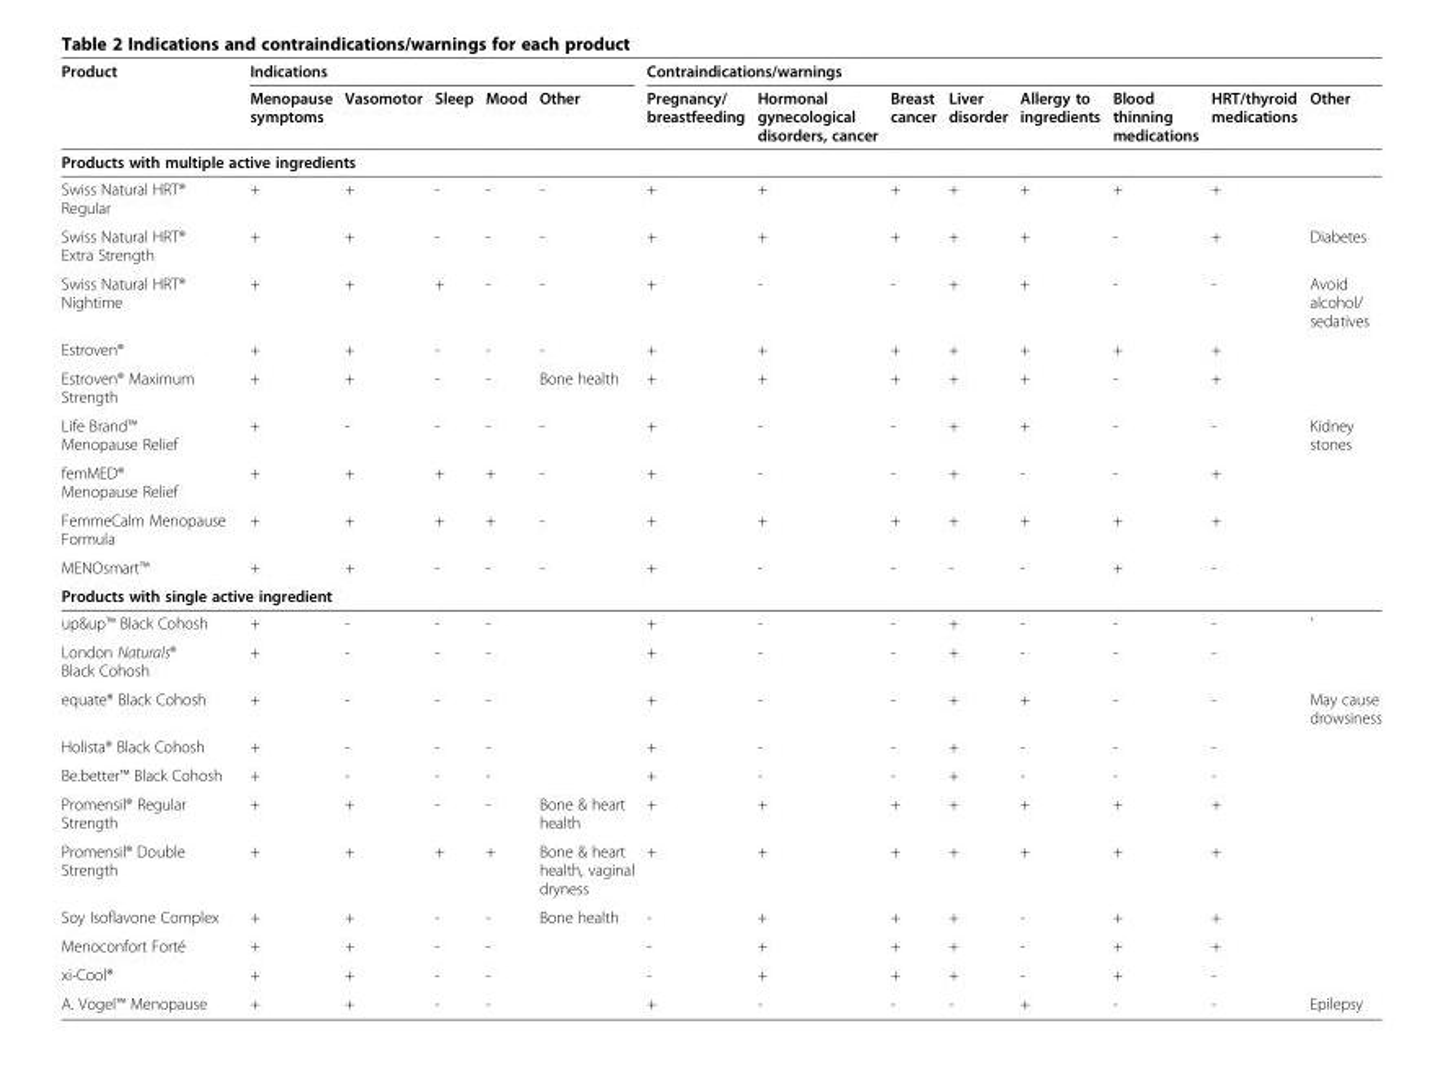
<table><thead><tr><td rowspan="2">Product</td><td colspan="5">Indications</td><td colspan="8">Contraindications/warnings</td></tr><tr><td>Menopause symptoms</td><td>Vasomotor</td><td>Sleep</td><td>Mood</td><td>Other</td><td>Pregnancy/ breastfeeding</td><td>Hormonal gynecological disorders, cancer</td><td>Breast cancer</td><td>Liver disorder</td><td>Allergy to ingredients</td><td>Blood thinning medications</td><td>HRT/thyroid medications</td><td>Other</td></tr></thead><tbody><tr><td colspan="14">Products with multiple active ingredients</td></tr><tr><td>Swiss Natural HRT® Regular</td><td>+</td><td>+</td><td>-</td><td>-</td><td>-</td><td>+</td><td>+</td><td>+</td><td>+</td><td>+</td><td>+</td><td>+</td><td></td></tr><tr><td>Swiss Natural HRT® Extra Strength</td><td>+</td><td>+</td><td>-</td><td>-</td><td>-</td><td>+</td><td>+</td><td>+</td><td>+</td><td>+</td><td>-</td><td>+</td><td>Diabetes</td></tr><tr><td>Swiss Natural HRT® Nightime</td><td>+</td><td>+</td><td>+</td><td>-</td><td>-</td><td>+</td><td>-</td><td>-</td><td>+</td><td>+</td><td>-</td><td>-</td><td>Avoid alcohol/ sedatives</td></tr><tr><td>Estroven®</td><td>+</td><td>+</td><td>-</td><td>-</td><td>-</td><td>+</td><td>+</td><td>+</td><td>+</td><td>+</td><td>+</td><td>+</td><td></td></tr><tr><td>Estroven® Maximum Strength</td><td>+</td><td>+</td><td>-</td><td>-</td><td>Bone health</td><td>+</td><td>+</td><td>+</td><td>+</td><td>+</td><td>-</td><td>+</td><td></td></tr><tr><td>Life Brand™ Menopause Relief</td><td>+</td><td>-</td><td>-</td><td>-</td><td>-</td><td>+</td><td>-</td><td>-</td><td>+</td><td>+</td><td>-</td><td>-</td><td>Kidney stones</td></tr><tr><td>femMED® Menopause Relief</td><td>+</td><td>+</td><td>+</td><td>+</td><td>-</td><td>+</td><td>-</td><td>-</td><td>+</td><td>-</td><td>-</td><td>+</td><td></td></tr><tr><td>FemmeCalm Menopause Formula</td><td>+</td><td>+</td><td>+</td><td>+</td><td>-</td><td>+</td><td>+</td><td>+</td><td>+</td><td>+</td><td>+</td><td>+</td><td></td></tr><tr><td>MENOsmart™</td><td>+</td><td>+</td><td>-</td><td>-</td><td>-</td><td>+</td><td>-</td><td>-</td><td>-</td><td>-</td><td>+</td><td>-</td><td></td></tr><tr><td colspan="14">Products with single active ingredient</td></tr><tr><td>up&amp;up™ Black Cohosh</td><td>+</td><td>-</td><td>-</td><td>-</td><td></td><td>+</td><td>-</td><td>-</td><td>+</td><td>-</td><td>-</td><td>-</td><td>’</td></tr><tr><td>London Naturals® Black Cohosh</td><td>+</td><td>-</td><td>-</td><td>-</td><td></td><td>+</td><td>-</td><td>-</td><td>+</td><td>-</td><td>-</td><td>-</td><td></td></tr><tr><td>equate® Black Cohosh</td><td>+</td><td>-</td><td>-</td><td>-</td><td></td><td>+</td><td>-</td><td>-</td><td>+</td><td>+</td><td>-</td><td>-</td><td>May cause drowsiness</td></tr><tr><td>Holista® Black Cohosh</td><td>+</td><td>-</td><td>-</td><td>-</td><td></td><td>+</td><td>-</td><td>-</td><td>+</td><td>-</td><td>-</td><td>-</td><td></td></tr><tr><td>Be.better™ Black Cohosh</td><td>+</td><td>-</td><td>-</td><td>-</td><td></td><td>+</td><td>-</td><td>-</td><td>+</td><td>-</td><td>-</td><td>-</td><td></td></tr><tr><td>Promensil® Regular Strength</td><td>+</td><td>+</td><td>-</td><td>-</td><td>Bone &amp; heart health</td><td>+</td><td>+</td><td>+</td><td>+</td><td>+</td><td>+</td><td>+</td><td></td></tr><tr><td>Promensil® Double Strength</td><td>+</td><td>+</td><td>+</td><td>+</td><td>Bone &amp; heart health, vaginal dryness</td><td>+</td><td>+</td><td>+</td><td>+</td><td>+</td><td>+</td><td>+</td><td></td></tr><tr><td>Soy Isoflavone Complex</td><td>+</td><td>+</td><td>-</td><td>-</td><td>Bone health</td><td>-</td><td>+</td><td>+</td><td>+</td><td>-</td><td>+</td><td>+</td><td></td></tr><tr><td>Menoconfort Forté</td><td>+</td><td>+</td><td>-</td><td>-</td><td></td><td>-</td><td>+</td><td>+</td><td>+</td><td>-</td><td>+</td><td>+</td><td></td></tr><tr><td>xi-Cool®</td><td>+</td><td>+</td><td>-</td><td>-</td><td></td><td>-</td><td>+</td><td>+</td><td>+</td><td>-</td><td>+</td><td>-</td><td></td></tr><tr><td>A. Vogel™ Menopause</td><td>+</td><td>+</td><td>-</td><td>-</td><td></td><td>+</td><td>-</td><td>-</td><td>-</td><td>+</td><td>-</td><td>-</td><td>Epilepsy</td></tr></tbody></table>